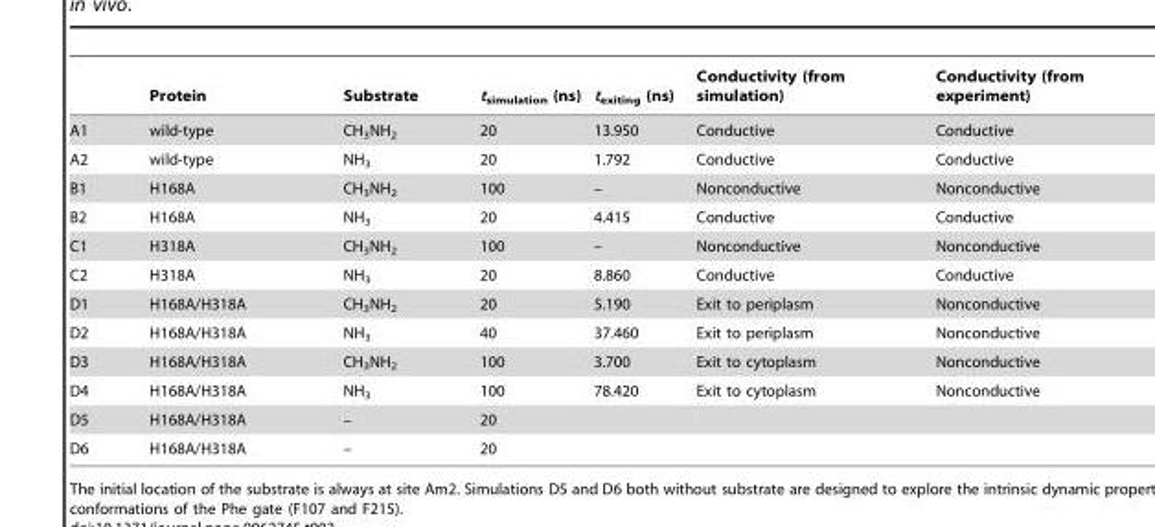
<table><thead><tr><td></td><td>Protein</td><td>Substrate</td><td>t<sub>simulation</sub> (ns)</td><td>t<sub>exiting</sub> (ns)</td><td>Conductivity (from simulation)</td><td>Conductivity (from experiment)</td></tr></thead><tbody><tr><td>A1</td><td>wild-type</td><td>CH<sub>3</sub>NH<sub>2</sub></td><td>20</td><td>13.950</td><td>Conductive</td><td>Conductive</td></tr><tr><td>A2</td><td>wild-type</td><td>NH<sub>3</sub></td><td>20</td><td>1.792</td><td>Conductive</td><td>Conductive</td></tr><tr><td>B1</td><td>H168A</td><td>CH<sub>3</sub>NH<sub>2</sub></td><td>100</td><td>–</td><td>Nonconductive</td><td>Nonconductive</td></tr><tr><td>B2</td><td>H168A</td><td>NH<sub>3</sub></td><td>20</td><td>4.415</td><td>Conductive</td><td>Conductive</td></tr><tr><td>C1</td><td>H318A</td><td>CH<sub>3</sub>NH<sub>2</sub></td><td>100</td><td>–</td><td>Nonconductive</td><td>Nonconductive</td></tr><tr><td>C2</td><td>H318A</td><td>NH<sub>3</sub></td><td>20</td><td>8.860</td><td>Conductive</td><td>Conductive</td></tr><tr><td>D1</td><td>H168A/H318A</td><td>CH<sub>3</sub>NH<sub>2</sub></td><td>20</td><td>5.190</td><td>Exit to periplasm</td><td>Nonconductive</td></tr><tr><td>D2</td><td>H168A/H318A</td><td>NH<sub>3</sub></td><td>40</td><td>37.460</td><td>Exit to periplasm</td><td>Nonconductive</td></tr><tr><td>D3</td><td>H168A/H318A</td><td>CH<sub>3</sub>NH<sub>2</sub></td><td>100</td><td>3.700</td><td>Exit to cytoplasm</td><td>Nonconductive</td></tr><tr><td>D4</td><td>H168A/H318A</td><td>NH<sub>3</sub></td><td>100</td><td>78.420</td><td>Exit to cytoplasm</td><td>Nonconductive</td></tr><tr><td>D5</td><td>H168A/H318A</td><td>–</td><td>20</td><td></td><td></td><td></td></tr><tr><td>D6</td><td>H168A/H318A</td><td>–</td><td>20</td><td></td><td></td><td></td></tr></tbody></table>